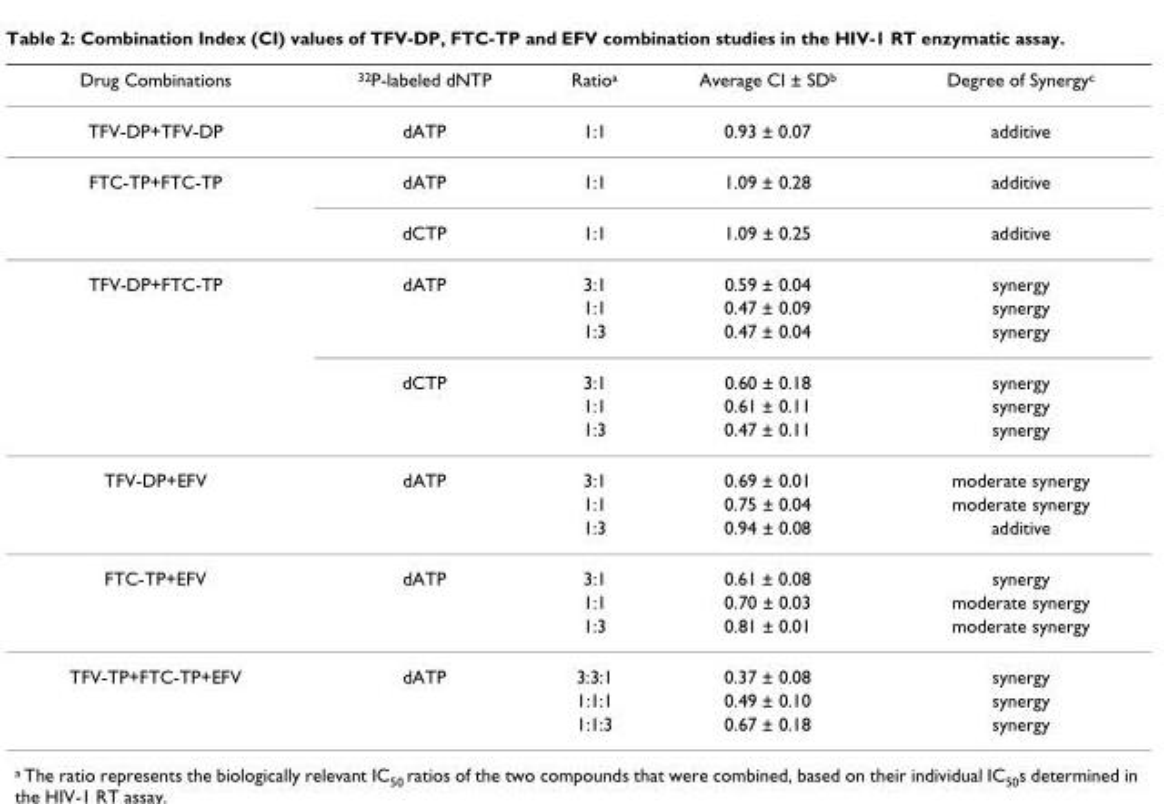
<table><thead><tr><td>Drug Combinations</td><td><sup>32</sup>P-labeled dNTP</td><td>Ratio<sup>a</sup></td><td>Average CI ± SD<sup>b</sup></td><td>Degree of Synergy<sup>c</sup></td></tr></thead><tbody><tr><td>TFV-DP+TFV-DP</td><td>dATP</td><td>1:1</td><td>0.93 ± 0.07</td><td>additive</td></tr><tr><td rowspan="2">FTC-TP+FTC-TP</td><td>dATP</td><td>1:1</td><td>1.09 ± 0.28</td><td>additive</td></tr><tr><td>dCTP</td><td>1:1</td><td>1.09 ± 0.25</td><td>additive</td></tr><tr><td rowspan="6">TFV-DP+FTC-TP</td><td>dATP</td><td>3:1</td><td>0.59 ± 0.04</td><td>synergy</td></tr><tr><td></td><td>1:1</td><td>0.47 ± 0.09</td><td>synergy</td></tr><tr><td></td><td>1:3</td><td>0.47 ± 0.04</td><td>synergy</td></tr><tr><td>dCTP</td><td>3:1</td><td>0.60 ± 0.18</td><td>synergy</td></tr><tr><td></td><td>1:1</td><td>0.61 ± 0.11</td><td>synergy</td></tr><tr><td></td><td>1:3</td><td>0.47 ± 0.11</td><td>synergy</td></tr><tr><td rowspan="3">TFV-DP+EFV</td><td>dATP</td><td>3:1</td><td>0.69 ± 0.01</td><td>moderate synergy</td></tr><tr><td></td><td>1:1</td><td>0.75 ± 0.04</td><td>moderate synergy</td></tr><tr><td></td><td>1:3</td><td>0.94 ± 0.08</td><td>additive</td></tr><tr><td rowspan="3">FTC-TP+EFV</td><td>dATP</td><td>3:1</td><td>0.61 ± 0.08</td><td>synergy</td></tr><tr><td></td><td>1:1</td><td>0.70 ± 0.03</td><td>moderate synergy</td></tr><tr><td></td><td>1:3</td><td>0.81 ± 0.01</td><td>moderate synergy</td></tr><tr><td rowspan="3">TFV-TP+FTC-TP+EFV</td><td>dATP</td><td>3:3:1</td><td>0.37 ± 0.08</td><td>synergy</td></tr><tr><td></td><td>1:1:1</td><td>0.49 ± 0.10</td><td>synergy</td></tr><tr><td></td><td>1:1:3</td><td>0.67 ± 0.18</td><td>synergy</td></tr></tbody></table>